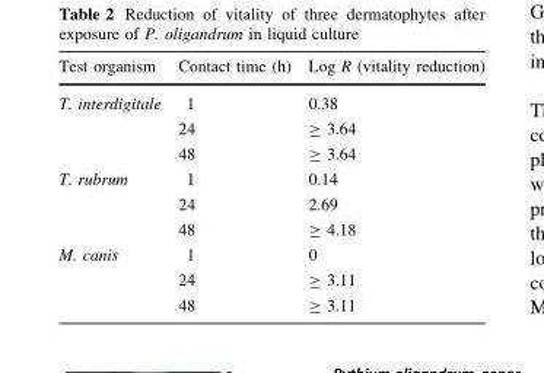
<table><thead><tr><td>Test organism</td><td>Contact time (h)</td><td>Log R (vitality reduction)</td></tr></thead><tbody><tr><td rowspan="3">T. interdigitale</td><td>1</td><td>0.38</td></tr><tr><td>24</td><td>≥ 3.64</td></tr><tr><td>48</td><td>≥ 3.64</td></tr><tr><td rowspan="3">T. rubrum</td><td>1</td><td>0.14</td></tr><tr><td>24</td><td>2.69</td></tr><tr><td>48</td><td>≥ 4.18</td></tr><tr><td rowspan="3">M. canis</td><td>1</td><td>0</td></tr><tr><td>24</td><td>≥ 3.11</td></tr><tr><td>48</td><td>≥ 3.11</td></tr></tbody></table>